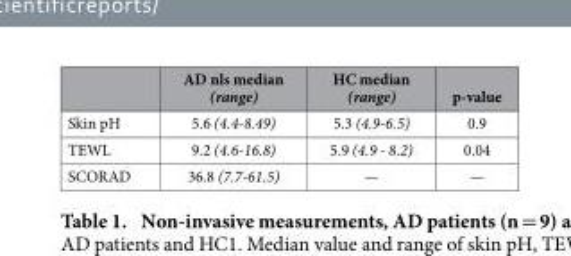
<table><thead><tr><td></td><td>AD nls median (range)</td><td>HC median (range)</td><td>p-value</td></tr></thead><tbody><tr><td>Skin pH</td><td>5.6 (4.4-8.49)</td><td>5.3 (4.9-6.5)</td><td>0.9</td></tr><tr><td>TEWL</td><td>9.2 (4.6-16.8)</td><td>5.9 (4.9 - 8.2)</td><td>0.04</td></tr><tr><td>SCORAD</td><td>36.8 (7.7-61.5)</td><td>—</td><td>—</td></tr></tbody></table>